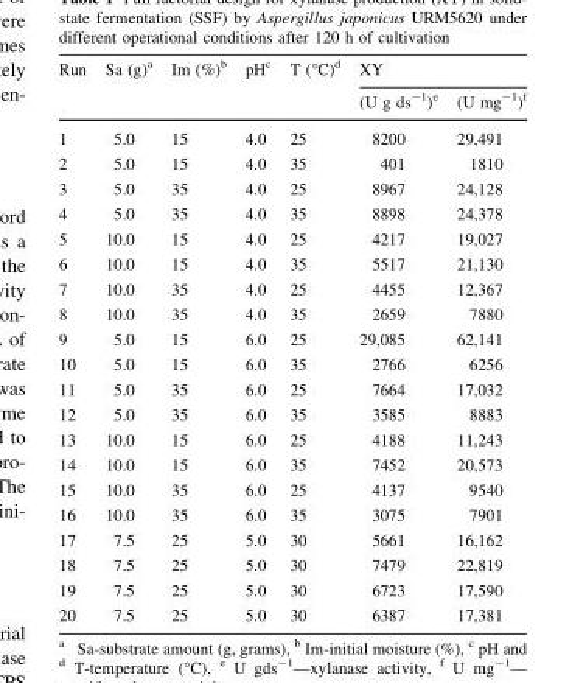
<table><thead><tr><td rowspan="2">Run</td><td rowspan="2">Sa (g)<sup>a</sup></td><td rowspan="2">Im (%)<sup>b</sup></td><td rowspan="2">pH<sup>c</sup></td><td rowspan="2">T (°C)<sup>d</sup></td><td colspan="2">XY</td></tr><tr><td>(U g ds<sup>-1</sup>)<sup>e</sup></td><td>(U mg<sup>-1</sup>)<sup>f</sup></td></tr></thead><tbody><tr><td>1</td><td>5.0</td><td>15</td><td>4.0</td><td>25</td><td>8200</td><td>29,491</td></tr><tr><td>2</td><td>5.0</td><td>15</td><td>4.0</td><td>35</td><td>401</td><td>1810</td></tr><tr><td>3</td><td>5.0</td><td>35</td><td>4.0</td><td>25</td><td>8967</td><td>24,128</td></tr><tr><td>4</td><td>5.0</td><td>35</td><td>4.0</td><td>35</td><td>8898</td><td>24,378</td></tr><tr><td>5</td><td>10.0</td><td>15</td><td>4.0</td><td>25</td><td>4217</td><td>19,027</td></tr><tr><td>6</td><td>10.0</td><td>15</td><td>4.0</td><td>35</td><td>5517</td><td>21,130</td></tr><tr><td>7</td><td>10.0</td><td>35</td><td>4.0</td><td>25</td><td>4455</td><td>12,367</td></tr><tr><td>8</td><td>10.0</td><td>35</td><td>4.0</td><td>35</td><td>2659</td><td>7880</td></tr><tr><td>9</td><td>5.0</td><td>15</td><td>6.0</td><td>25</td><td>29,085</td><td>62,141</td></tr><tr><td>10</td><td>5.0</td><td>15</td><td>6.0</td><td>35</td><td>2766</td><td>6256</td></tr><tr><td>11</td><td>5.0</td><td>35</td><td>6.0</td><td>25</td><td>7664</td><td>17,032</td></tr><tr><td>12</td><td>5.0</td><td>35</td><td>6.0</td><td>35</td><td>3585</td><td>8883</td></tr><tr><td>13</td><td>10.0</td><td>15</td><td>6.0</td><td>25</td><td>4188</td><td>11,243</td></tr><tr><td>14</td><td>10.0</td><td>15</td><td>6.0</td><td>35</td><td>7452</td><td>20,573</td></tr><tr><td>15</td><td>10.0</td><td>35</td><td>6.0</td><td>25</td><td>4137</td><td>9540</td></tr><tr><td>16</td><td>10.0</td><td>35</td><td>6.0</td><td>35</td><td>3075</td><td>7901</td></tr><tr><td>17</td><td>7.5</td><td>25</td><td>5.0</td><td>30</td><td>5661</td><td>16,162</td></tr><tr><td>18</td><td>7.5</td><td>25</td><td>5.0</td><td>30</td><td>7479</td><td>22,819</td></tr><tr><td>19</td><td>7.5</td><td>25</td><td>5.0</td><td>30</td><td>6723</td><td>17,590</td></tr><tr><td>20</td><td>7.5</td><td>25</td><td>5.0</td><td>30</td><td>6387</td><td>17,381</td></tr></tbody></table>